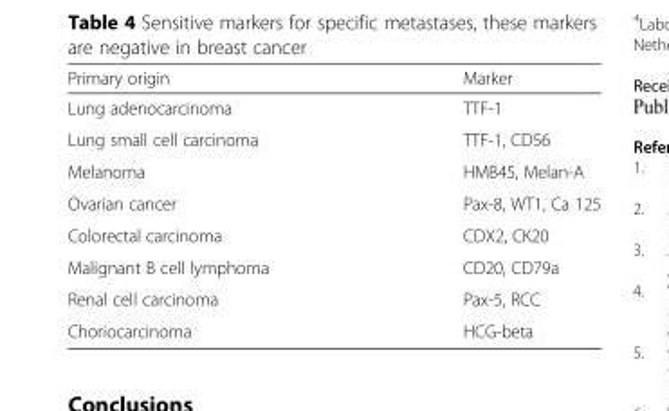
<table><thead><tr><td>Primary origin</td><td>Marker</td></tr></thead><tbody><tr><td>Lung adenocarcinoma</td><td>TTF-1</td></tr><tr><td>Lung small cell carcinoma</td><td>TTF-1, CD56</td></tr><tr><td>Melanoma</td><td>HMB45, Melan-A</td></tr><tr><td>Ovarian cancer</td><td>Pax-8, WT1, Ca 125</td></tr><tr><td>Colorectal carcinoma</td><td>CDX2, CK20</td></tr><tr><td>Malignant B cell lymphoma</td><td>CD20, CD79a</td></tr><tr><td>Renal cell carcinoma</td><td>Pax-5, RCC</td></tr><tr><td>Choriocarcinoma</td><td>HCG-beta</td></tr></tbody></table>